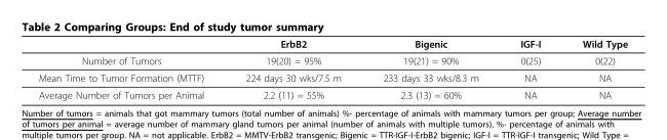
<table><thead><tr><td></td><td>ErbB2</td><td>Bigenic</td><td>IGF-I</td><td>Wild Type</td></tr></thead><tbody><tr><td>Number of Tumors</td><td>19(20) = 95%</td><td>19(21) = 90%</td><td>0(25)</td><td>0(22)</td></tr><tr><td>Mean Time to Tumor Formation (MTTF)</td><td>224 days 30 wks/7.5 m</td><td>233 days 33 wks/8.3 m</td><td>NA</td><td>NA</td></tr><tr><td>Average Number of Tumors per Animal</td><td>2.2 (11) = 55%</td><td>2.3 (13) = 60%</td><td>NA</td><td>NA</td></tr></tbody></table>